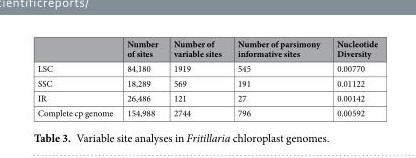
<table><thead><tr><td></td><td>Number of sites</td><td>Number of variable sites</td><td>Number of parsimony informative sites</td><td>Nucleotide Diversity</td></tr></thead><tbody><tr><td>LSC</td><td>84,180</td><td>1919</td><td>545</td><td>0.00770</td></tr><tr><td>SSC</td><td>18,289</td><td>569</td><td>191</td><td>0.01122</td></tr><tr><td>IR</td><td>26,486</td><td>121</td><td>27</td><td>0.00142</td></tr><tr><td>Complete cp genome</td><td>154,988</td><td>2744</td><td>796</td><td>0.00592</td></tr></tbody></table>